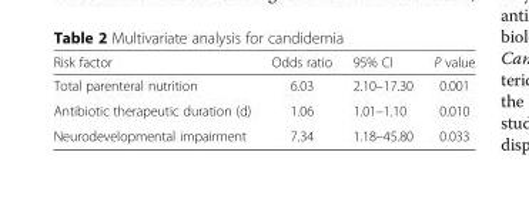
<table><thead><tr><td>Risk factor</td><td>Odds ratio</td><td>95% CI</td><td>P value</td></tr></thead><tbody><tr><td>Total parenteral nutrition</td><td>6.03</td><td>2.10–17.30</td><td>0.001</td></tr><tr><td>Antibiotic therapeutic duration (d)</td><td>1.06</td><td>1.01–1.10</td><td>0.010</td></tr><tr><td>Neurodevelopmental impairment</td><td>7.34</td><td>1.18–45.80</td><td>0.033</td></tr></tbody></table>